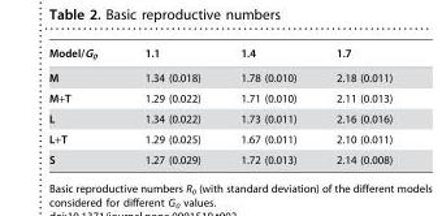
<table><thead><tr><td>Model/G<sub>0</sub></td><td>1.1</td><td>1.4</td><td>1.7</td></tr></thead><tbody><tr><td>M</td><td>1.34 (0.018)</td><td>1.78 (0.010)</td><td>2.18 (0.011)</td></tr><tr><td>M+T</td><td>1.29 (0.022)</td><td>1.71 (0.010)</td><td>2.11 (0.013)</td></tr><tr><td>L</td><td>1.34 (0.022)</td><td>1.73 (0.011)</td><td>2.16 (0.016)</td></tr><tr><td>L+T</td><td>1.29 (0.025)</td><td>1.67 (0.011)</td><td>2.10 (0.011)</td></tr><tr><td>S</td><td>1.27 (0.029)</td><td>1.72 (0.013)</td><td>2.14 (0.008)</td></tr></tbody></table>